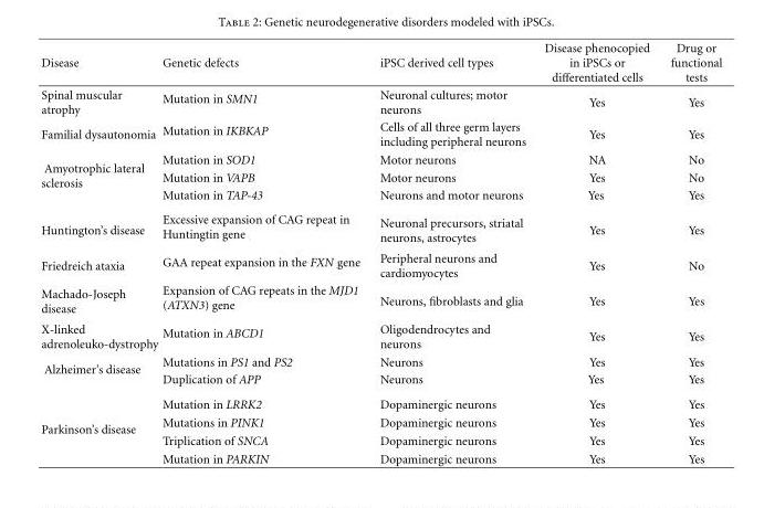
<table><thead><tr><td>Disease</td><td>Genetic defects</td><td>iPSC derived cell types</td><td>Disease phenocopied in iPSCs or differentiated cells</td><td>Drug or functional tests</td></tr></thead><tbody><tr><td>Spinal muscular atrophy</td><td>Mutation in SMN1</td><td>Neuronal cultures; motor neurons</td><td>Yes</td><td>Yes</td></tr><tr><td>Familial dysautonomia</td><td>Mutation in IKBKAP</td><td>Cells of all three germ layers including peripheral neurons</td><td>Yes</td><td>Yes</td></tr><tr><td rowspan="3">Amyotrophic lateral sclerosis</td><td>Mutation in SOD1</td><td>Motor neurons</td><td>NA</td><td>No</td></tr><tr><td>Mutation in VAPB</td><td>Motor neurons</td><td>Yes</td><td>No</td></tr><tr><td>Mutation in TAP-43</td><td>Neurons and motor neurons</td><td>Yes</td><td>Yes</td></tr><tr><td>Huntington’s disease</td><td>Excessive expansion of CAG repeat in Huntingtin gene</td><td>Neuronal precursors, striatal neurons, astrocytes</td><td>Yes</td><td>Yes</td></tr><tr><td>Friedreich ataxia</td><td>GAA repeat expansion in the FXN gene</td><td>Peripheral neurons and cardiomyocytes</td><td>Yes</td><td>No</td></tr><tr><td>Machado-Joseph disease</td><td>Expansion of CAG repeats in the MJD1 (ATXN3) gene</td><td>Neurons, fibroblasts and glia</td><td>Yes</td><td>Yes</td></tr><tr><td>X-linked adrenoleuko-dystrophy</td><td>Mutation in ABCD1</td><td>Oligodendrocytes and neurons</td><td>Yes</td><td>Yes</td></tr><tr><td rowspan="2">Alzheimer’s disease</td><td>Mutations in PS1 and PS2</td><td>Neurons</td><td>Yes</td><td>Yes</td></tr><tr><td>Duplication of APP</td><td>Neurons</td><td>Yes</td><td>Yes</td></tr><tr><td rowspan="4">Parkinson’s disease</td><td>Mutation in LRRK2</td><td>Dopaminergic neurons</td><td>Yes</td><td>Yes</td></tr><tr><td>Mutations in PINK1</td><td>Dopaminergic neurons</td><td>Yes</td><td>Yes</td></tr><tr><td>Triplication of SNCA</td><td>Dopaminergic neurons</td><td>Yes</td><td>Yes</td></tr><tr><td>Mutation in PARKIN</td><td>Dopaminergic neurons</td><td>Yes</td><td>Yes</td></tr></tbody></table>